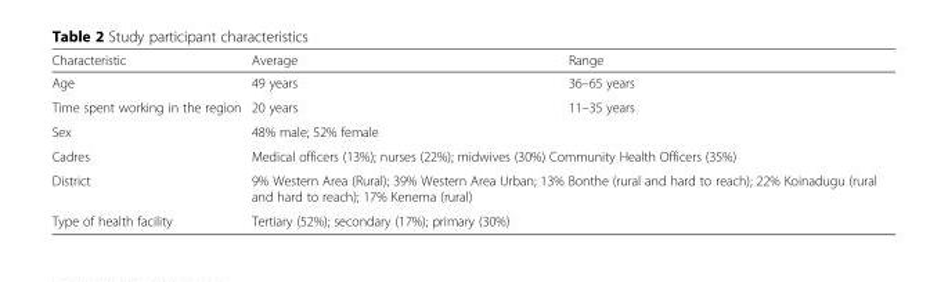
<table><thead><tr><td>Characteristic</td><td>Average</td><td>Range</td></tr></thead><tbody><tr><td>Age</td><td>49 years</td><td>36–65 years</td></tr><tr><td>Time spent working in the region</td><td>20 years</td><td>11–35 years</td></tr><tr><td>Sex</td><td colspan="2">48% male; 52% female</td></tr><tr><td>Cadres</td><td colspan="2">Medical officers (13%); nurses (22%); midwives (30%) Community Health Officers (35%)</td></tr><tr><td>District</td><td colspan="2">9% Western Area (Rural); 39% Western Area Urban; 13% Bonthe (rural and hard to reach); 22% Koinadugu (rural and hard to reach); 17% Kenema (rural)</td></tr><tr><td>Type of health facility</td><td colspan="2">Tertiary (52%); secondary (17%); primary (30%)</td></tr></tbody></table>